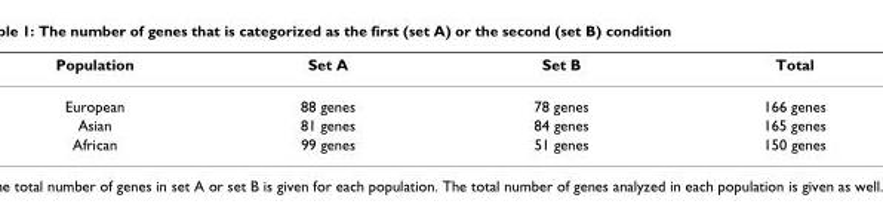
<table><thead><tr><td>Population</td><td>Set A</td><td>Set B</td><td>Total</td></tr></thead><tbody><tr><td>European</td><td>88 genes</td><td>78 genes</td><td>166 genes</td></tr><tr><td>Asian</td><td>81 genes</td><td>84 genes</td><td>165 genes</td></tr><tr><td>African</td><td>99 genes</td><td>51 genes</td><td>150 genes</td></tr></tbody></table>